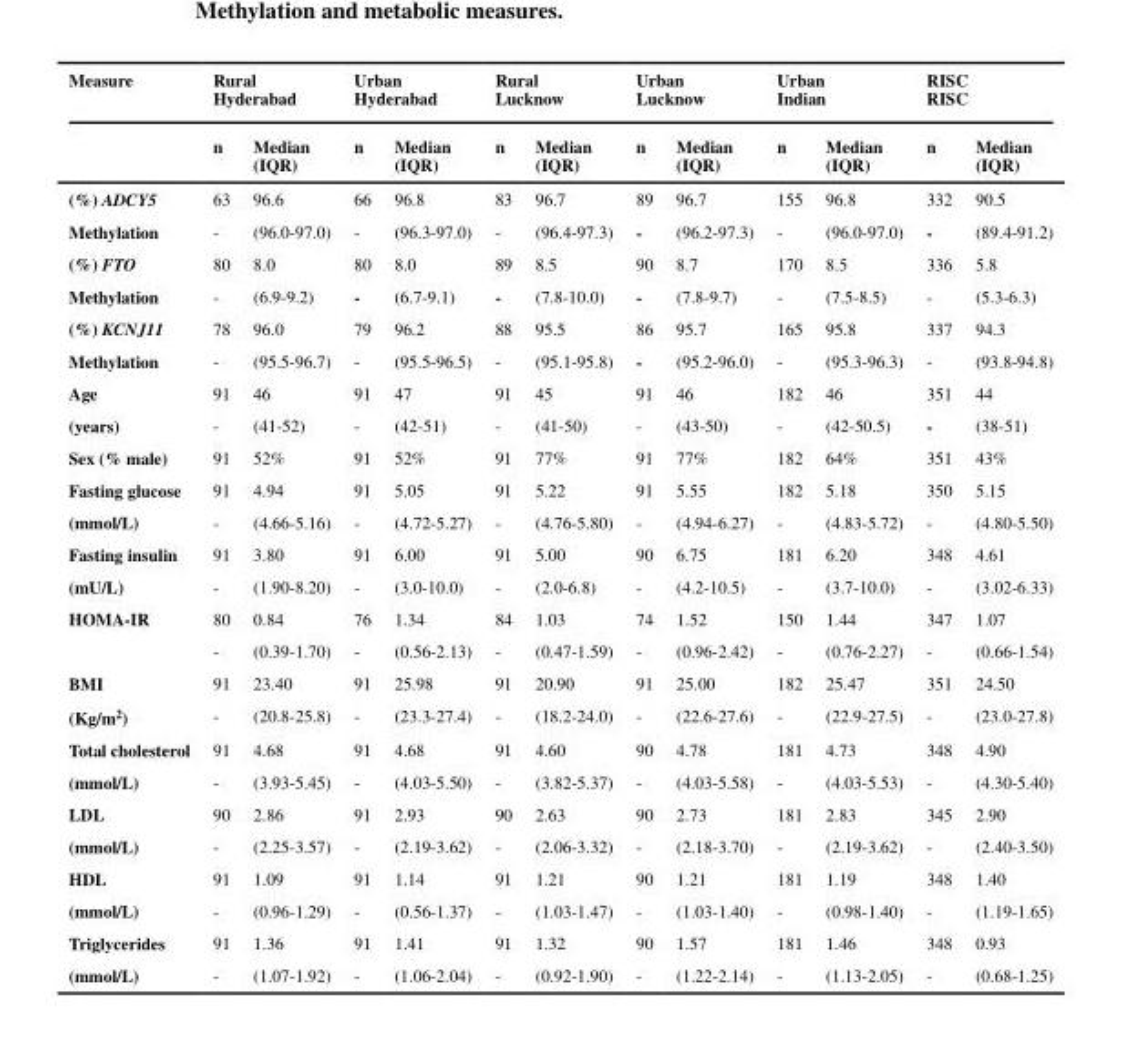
<table><thead><tr><td rowspan="2">Measure</td><td colspan="2">Rural Hyderabad</td><td colspan="2">Urban Hyderabad</td><td colspan="2">Rural Lucknow</td><td colspan="2">Urban Lucknow</td><td colspan="2">Urban Indian</td><td colspan="2">RISC RISC</td></tr><tr><td>n</td><td>Median (IQR)</td><td>n</td><td>Median (IQR)</td><td>n</td><td>Median (IQR)</td><td>n</td><td>Median (IQR)</td><td>n</td><td>Median (IQR)</td><td>n</td><td>Median (IQR)</td></tr></thead><tbody><tr><td>(%) ADCY5</td><td>63</td><td>96.6</td><td>66</td><td>96.8</td><td>83</td><td>96.7</td><td>89</td><td>96.7</td><td>155</td><td>96.8</td><td>332</td><td>90.5</td></tr><tr><td>Methylation</td><td>-</td><td>(96.0-97.0)</td><td>-</td><td>(96.3-97.0)</td><td>-</td><td>(96.4-97.3)</td><td>-</td><td>(96.2-97.3)</td><td>-</td><td>(96.0-97.0)</td><td>-</td><td>(89.4-91.2)</td></tr><tr><td>(%) FTO</td><td>80</td><td>8.0</td><td>80</td><td>8.0</td><td>89</td><td>8.5</td><td>90</td><td>8.7</td><td>170</td><td>8.5</td><td>336</td><td>5.8</td></tr><tr><td>Methylation</td><td>-</td><td>(6.9-9.2)</td><td>-</td><td>(6.7-9.1)</td><td>-</td><td>(7.8-10.0)</td><td>-</td><td>(7.8-9.7)</td><td>-</td><td>(7.5-8.5)</td><td>-</td><td>(5.3-6.3)</td></tr><tr><td>(%) KCNJ11</td><td>78</td><td>96.0</td><td>79</td><td>96.2</td><td>88</td><td>95.5</td><td>86</td><td>95.7</td><td>165</td><td>95.8</td><td>337</td><td>94.3</td></tr><tr><td>Methylation</td><td>-</td><td>(95.5-96.7)</td><td>-</td><td>(95.5-96.5)</td><td>-</td><td>(95.1-95.8)</td><td>-</td><td>(95.2-96.0)</td><td>-</td><td>(95.3-96.3)</td><td>-</td><td>(93.8-94.8)</td></tr><tr><td>Age</td><td>91</td><td>46</td><td>91</td><td>47</td><td>91</td><td>45</td><td>91</td><td>46</td><td>182</td><td>46</td><td>351</td><td>44</td></tr><tr><td>(years)</td><td>-</td><td>(41-52)</td><td>-</td><td>(42-51)</td><td>-</td><td>(41-50)</td><td>-</td><td>(43-50)</td><td>-</td><td>(42-50.5)</td><td>-</td><td>(38-51)</td></tr><tr><td>Sex (% male)</td><td>91</td><td>52%</td><td>91</td><td>52%</td><td>91</td><td>77%</td><td>91</td><td>77%</td><td>182</td><td>64%</td><td>351</td><td>43%</td></tr><tr><td>Fasting glucose</td><td>91</td><td>4.94</td><td>91</td><td>5.05</td><td>91</td><td>5.22</td><td>91</td><td>5.55</td><td>182</td><td>5.18</td><td>350</td><td>5.15</td></tr><tr><td>(mmol/L)</td><td>-</td><td>(4.66-5.16)</td><td>-</td><td>(4.72-5.27)</td><td>-</td><td>(4.76-5.80)</td><td>-</td><td>(4.94-6.27)</td><td>-</td><td>(4.83-5.72)</td><td>-</td><td>(4.80-5.50)</td></tr><tr><td>Fasting insulin</td><td>91</td><td>3.80</td><td>91</td><td>6.00</td><td>91</td><td>5.00</td><td>90</td><td>6.75</td><td>181</td><td>6.20</td><td>348</td><td>4.61</td></tr><tr><td>(mU/L)</td><td>-</td><td>(1.90-8.20)</td><td>-</td><td>(3.0-10.0)</td><td>-</td><td>(2.0-6.8)</td><td>-</td><td>(4.2-10.5)</td><td>-</td><td>(3.7-10.0)</td><td>-</td><td>(3.02-6.33)</td></tr><tr><td rowspan="2">HOMA-IR</td><td>80</td><td>0.84</td><td>76</td><td>1.34</td><td>84</td><td>1.03</td><td>74</td><td>1.52</td><td>150</td><td>1.44</td><td>347</td><td>1.07</td></tr><tr><td>-</td><td>(0.39-1.70)</td><td>-</td><td>(0.56-2.13)</td><td>-</td><td>(0.47-1.59)</td><td>-</td><td>(0.96-2.42)</td><td>-</td><td>(0.76-2.27)</td><td>-</td><td>(0.66-1.54)</td></tr><tr><td>BMI</td><td>91</td><td>23.40</td><td>91</td><td>25.98</td><td>91</td><td>20.90</td><td>91</td><td>25.00</td><td>182</td><td>25.47</td><td>351</td><td>24.50</td></tr><tr><td>(Kg/m<sup>2</sup>)</td><td>-</td><td>(20.8-25.8)</td><td>-</td><td>(23.3-27.4)</td><td>-</td><td>(18.2-24.0)</td><td>-</td><td>(22.6-27.6)</td><td>-</td><td>(22.9-27.5)</td><td>-</td><td>(23.0-27.8)</td></tr><tr><td>Total cholesterol</td><td>91</td><td>4.68</td><td>91</td><td>4.68</td><td>91</td><td>4.60</td><td>90</td><td>4.78</td><td>181</td><td>4.73</td><td>348</td><td>4.90</td></tr><tr><td>(mmol/L)</td><td>-</td><td>(3.93-5.45)</td><td>-</td><td>(4.03-5.50)</td><td>-</td><td>(3.82-5.37)</td><td>-</td><td>(4.03-5.58)</td><td>-</td><td>(4.03-5.53)</td><td>-</td><td>(4.30-5.40)</td></tr><tr><td>LDL</td><td>90</td><td>2.86</td><td>91</td><td>2.93</td><td>90</td><td>2.63</td><td>90</td><td>2.73</td><td>181</td><td>2.83</td><td>345</td><td>2.90</td></tr><tr><td>(mmol/L)</td><td>-</td><td>(2.25-3.57)</td><td>-</td><td>(2.19-3.62)</td><td>-</td><td>(2.06-3.32)</td><td>-</td><td>(2.18-3.70)</td><td>-</td><td>(2.19-3.62)</td><td>-</td><td>(2.40-3.50)</td></tr><tr><td>HDL</td><td>91</td><td>1.09</td><td>91</td><td>1.14</td><td>91</td><td>1.21</td><td>90</td><td>1.21</td><td>181</td><td>1.19</td><td>348</td><td>1.40</td></tr><tr><td>(mmol/L)</td><td>-</td><td>(0.96-1.29)</td><td>-</td><td>(0.56-1.37)</td><td>-</td><td>(1.03-1.47)</td><td>-</td><td>(1.03-1.40)</td><td>-</td><td>(0.98-1.40)</td><td>-</td><td>(1.19-1.65)</td></tr><tr><td>Triglycerides</td><td>91</td><td>1.36</td><td>91</td><td>1.41</td><td>91</td><td>1.32</td><td>90</td><td>1.57</td><td>181</td><td>1.46</td><td>348</td><td>0.93</td></tr><tr><td>(mmol/L)</td><td>-</td><td>(1.07-1.92)</td><td>-</td><td>(1.06-2.04)</td><td>-</td><td>(0.92-1.90)</td><td>-</td><td>(1.22-2.14)</td><td>-</td><td>(1.13-2.05)</td><td>-</td><td>(0.68-1.25)</td></tr></tbody></table>